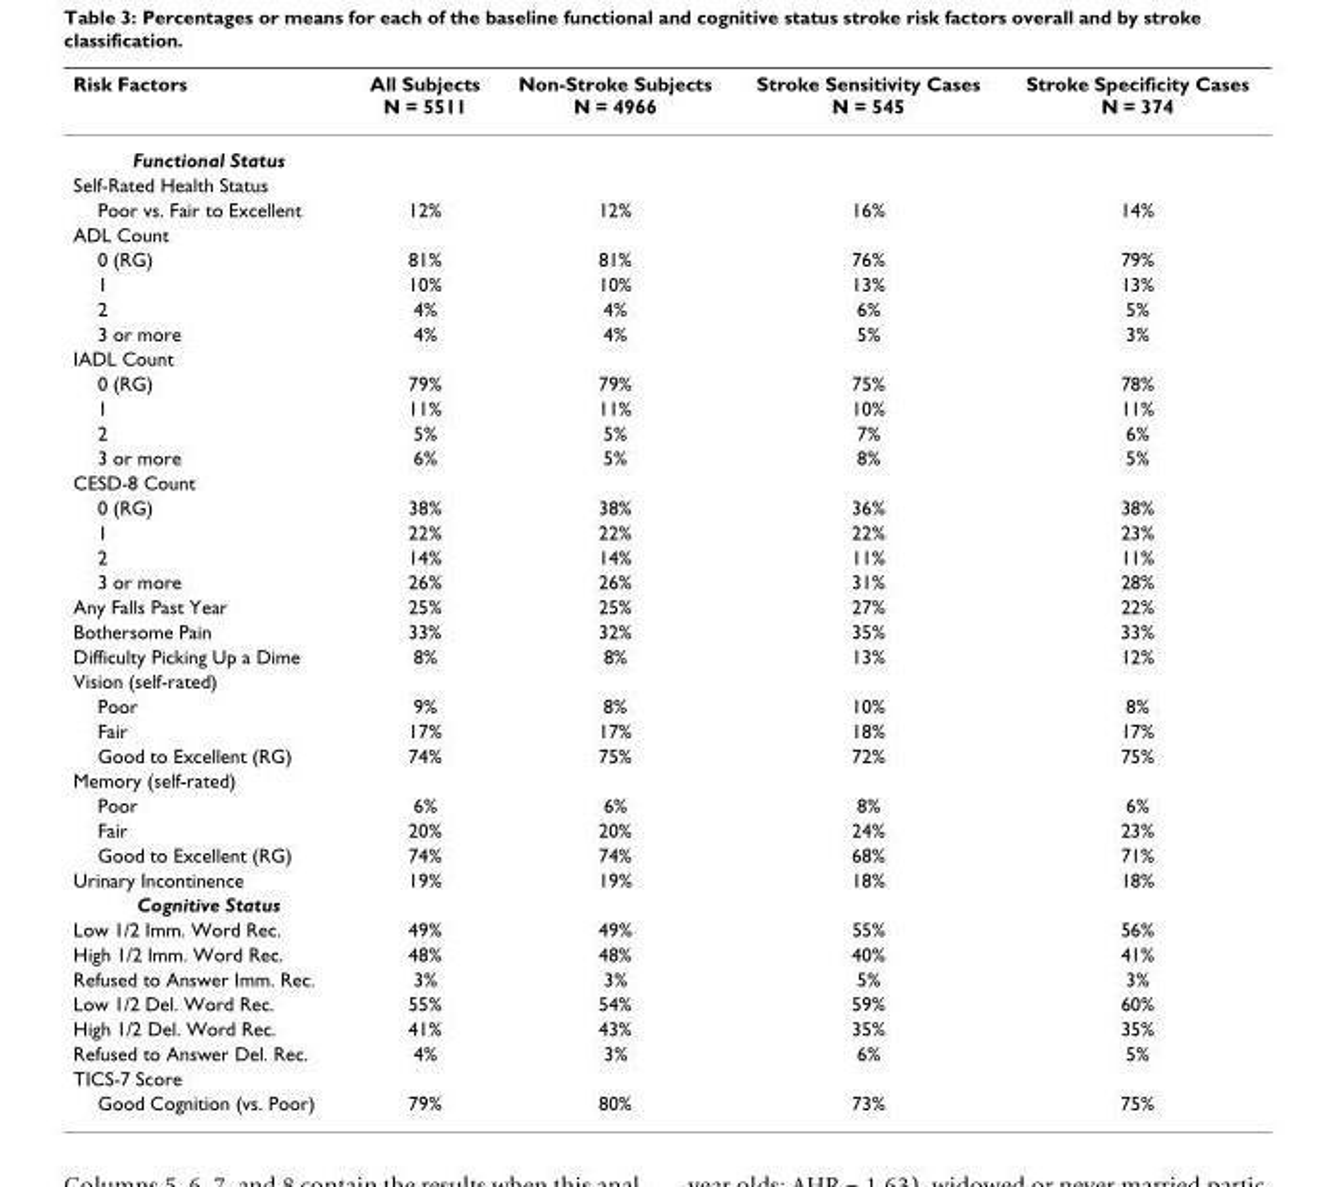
<table><thead><tr><td>Risk Factors</td><td>All Subjects N = 5511</td><td>Non-Stroke Subjects N = 4966</td><td>Stroke Sensitivity Cases N = 545</td><td>Stroke Specificity Cases N = 374</td></tr></thead><tbody><tr><td colspan="5">Functional Status</td></tr><tr><td colspan="5">Self-Rated Health Status</td></tr><tr><td>Poor vs. Fair to Excellent</td><td>12%</td><td>12%</td><td>16%</td><td>14%</td></tr><tr><td colspan="5">ADL Count</td></tr><tr><td>0 (RG)</td><td>81%</td><td>81%</td><td>76%</td><td>79%</td></tr><tr><td>1</td><td>10%</td><td>10%</td><td>13%</td><td>13%</td></tr><tr><td>2</td><td>4%</td><td>4%</td><td>6%</td><td>5%</td></tr><tr><td>3 or more</td><td>4%</td><td>4%</td><td>5%</td><td>3%</td></tr><tr><td colspan="5">IADL Count</td></tr><tr><td>0 (RG)</td><td>79%</td><td>79%</td><td>75%</td><td>78%</td></tr><tr><td>1</td><td>11%</td><td>11%</td><td>10%</td><td>11%</td></tr><tr><td>2</td><td>5%</td><td>5%</td><td>7%</td><td>6%</td></tr><tr><td>3 or more</td><td>6%</td><td>5%</td><td>8%</td><td>5%</td></tr><tr><td colspan="5">CESD-8 Count</td></tr><tr><td>0 (RG)</td><td>38%</td><td>38%</td><td>36%</td><td>38%</td></tr><tr><td>1</td><td>22%</td><td>22%</td><td>22%</td><td>23%</td></tr><tr><td>2</td><td>14%</td><td>14%</td><td>11%</td><td>11%</td></tr><tr><td>3 or more</td><td>26%</td><td>26%</td><td>31%</td><td>28%</td></tr><tr><td>Any Falls Past Year</td><td>25%</td><td>25%</td><td>27%</td><td>22%</td></tr><tr><td>Bothersome Pain</td><td>33%</td><td>32%</td><td>35%</td><td>33%</td></tr><tr><td>Difficulty Picking Up a Dime</td><td>8%</td><td>8%</td><td>13%</td><td>12%</td></tr><tr><td colspan="5">Vision (self-rated)</td></tr><tr><td>Poor</td><td>9%</td><td>8%</td><td>10%</td><td>8%</td></tr><tr><td>Fair</td><td>17%</td><td>17%</td><td>18%</td><td>17%</td></tr><tr><td>Good to Excellent (RG)</td><td>74%</td><td>75%</td><td>72%</td><td>75%</td></tr><tr><td colspan="5">Memory (self-rated)</td></tr><tr><td>Poor</td><td>6%</td><td>6%</td><td>8%</td><td>6%</td></tr><tr><td>Fair</td><td>20%</td><td>20%</td><td>24%</td><td>23%</td></tr><tr><td>Good to Excellent (RG)</td><td>74%</td><td>74%</td><td>68%</td><td>71%</td></tr><tr><td>Urinary Incontinence</td><td>19%</td><td>19%</td><td>18%</td><td>18%</td></tr><tr><td colspan="5">Cognitive Status</td></tr><tr><td>Low 1/2 Imm. Word Rec.</td><td>49%</td><td>49%</td><td>55%</td><td>56%</td></tr><tr><td>High 1/2 Imm. Word Rec.</td><td>48%</td><td>48%</td><td>40%</td><td>41%</td></tr><tr><td>Refused to Answer Imm. Rec.</td><td>3%</td><td>3%</td><td>5%</td><td>3%</td></tr><tr><td>Low 1/2 Del. Word Rec.</td><td>55%</td><td>54%</td><td>59%</td><td>60%</td></tr><tr><td>High 1/2 Del. Word Rec.</td><td>41%</td><td>43%</td><td>35%</td><td>35%</td></tr><tr><td>Refused to Answer Del. Rec.</td><td>4%</td><td>3%</td><td>6%</td><td>5%</td></tr><tr><td colspan="5">TICS-7 Score</td></tr><tr><td>Good Cognition (vs. Poor)</td><td>79%</td><td>80%</td><td>73%</td><td>75%</td></tr></tbody></table>